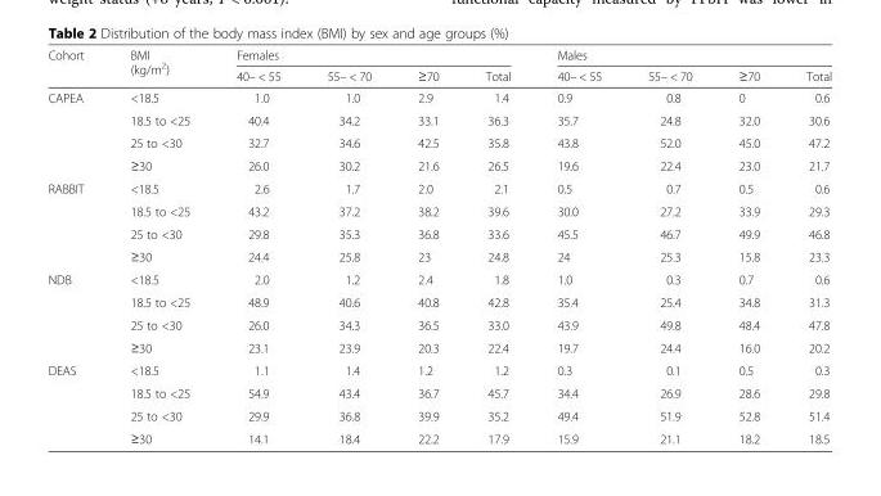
<table><thead><tr><td rowspan="2">Cohort</td><td rowspan="2">BMI (kg/m<sup>2</sup>)</td><td colspan="4">Females</td><td colspan="4">Males</td></tr><tr><td>40– &lt; 55</td><td>55– &lt; 70</td><td>≥70</td><td>Total</td><td>40– &lt; 55</td><td>55– &lt; 70</td><td>≥70</td><td>Total</td></tr></thead><tbody><tr><td rowspan="4">CAPEA</td><td>&lt;18.5</td><td>1.0</td><td>1.0</td><td>2.9</td><td>1.4</td><td>0.9</td><td>0.8</td><td>0</td><td>0.6</td></tr><tr><td>18.5 to &lt;25</td><td>40.4</td><td>34.2</td><td>33.1</td><td>36.3</td><td>35.7</td><td>24.8</td><td>32.0</td><td>30.6</td></tr><tr><td>25 to &lt;30</td><td>32.7</td><td>34.6</td><td>42.5</td><td>35.8</td><td>43.8</td><td>52.0</td><td>45.0</td><td>47.2</td></tr><tr><td>≥30</td><td>26.0</td><td>30.2</td><td>21.6</td><td>26.5</td><td>19.6</td><td>22.4</td><td>23.0</td><td>21.7</td></tr><tr><td rowspan="4">RABBIT</td><td>&lt;18.5</td><td>2.6</td><td>1.7</td><td>2.0</td><td>2.1</td><td>0.5</td><td>0.7</td><td>0.5</td><td>0.6</td></tr><tr><td>18.5 to &lt;25</td><td>43.2</td><td>37.2</td><td>38.2</td><td>39.6</td><td>30.0</td><td>27.2</td><td>33.9</td><td>29.3</td></tr><tr><td>25 to &lt;30</td><td>29.8</td><td>35.3</td><td>36.8</td><td>33.6</td><td>45.5</td><td>46.7</td><td>49.9</td><td>46.8</td></tr><tr><td>≥30</td><td>24.4</td><td>25.8</td><td>23</td><td>24.8</td><td>24</td><td>25.3</td><td>15.8</td><td>23.3</td></tr><tr><td rowspan="4">NDB</td><td>&lt;18.5</td><td>2.0</td><td>1.2</td><td>2.4</td><td>1.8</td><td>1.0</td><td>0.3</td><td>0.7</td><td>0.6</td></tr><tr><td>18.5 to &lt;25</td><td>48.9</td><td>40.6</td><td>40.8</td><td>42.8</td><td>35.4</td><td>25.4</td><td>34.8</td><td>31.3</td></tr><tr><td>25 to &lt;30</td><td>26.0</td><td>34.3</td><td>36.5</td><td>33.0</td><td>43.9</td><td>49.8</td><td>48.4</td><td>47.8</td></tr><tr><td>≥30</td><td>23.1</td><td>23.9</td><td>20.3</td><td>22.4</td><td>19.7</td><td>24.4</td><td>16.0</td><td>20.2</td></tr><tr><td rowspan="4">DEAS</td><td>&lt;18.5</td><td>1.1</td><td>1.4</td><td>1.2</td><td>1.2</td><td>0.3</td><td>0.1</td><td>0.5</td><td>0.3</td></tr><tr><td>18.5 to &lt;25</td><td>54.9</td><td>43.4</td><td>36.7</td><td>45.7</td><td>34.4</td><td>26.9</td><td>28.6</td><td>29.8</td></tr><tr><td>25 to &lt;30</td><td>29.9</td><td>36.8</td><td>39.9</td><td>35.2</td><td>49.4</td><td>51.9</td><td>52.8</td><td>51.4</td></tr><tr><td>≥30</td><td>14.1</td><td>18.4</td><td>22.2</td><td>17.9</td><td>15.9</td><td>21.1</td><td>18.2</td><td>18.5</td></tr></tbody></table>